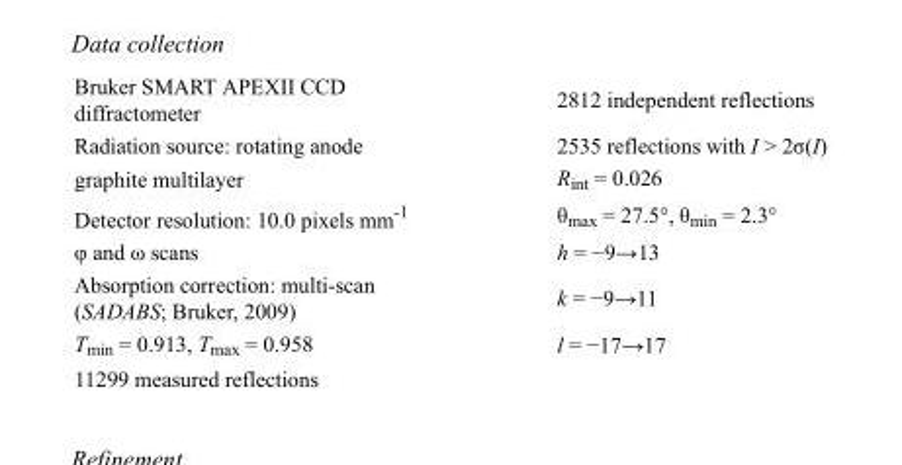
<table><tbody><tr><td>Bruker SMART APEXII CCD diffractometer</td><td>2812 independent reflections</td></tr><tr><td>Radiation source: rotating anode</td><td>2535 reflections with I &gt; 2σ(I)</td></tr><tr><td>graphite multilayer</td><td>R<sub>int</sub> = 0.026</td></tr><tr><td>Detector resolution: 10.0 pixels mm<sup>-1</sup></td><td>θ<sub>max</sub> = 27.5°, θ<sub>min</sub> = 2.3°</td></tr><tr><td>φ and ω scans</td><td>h = −9→13</td></tr><tr><td>Absorption correction: multi-scan (SADABS; Bruker, 2009)</td><td>k = −9→11</td></tr><tr><td>T<sub>min</sub> = 0.913, T<sub>max</sub> = 0.958</td><td>l = −17→17</td></tr><tr><td>11299 measured reflections</td><td></td></tr></tbody></table>